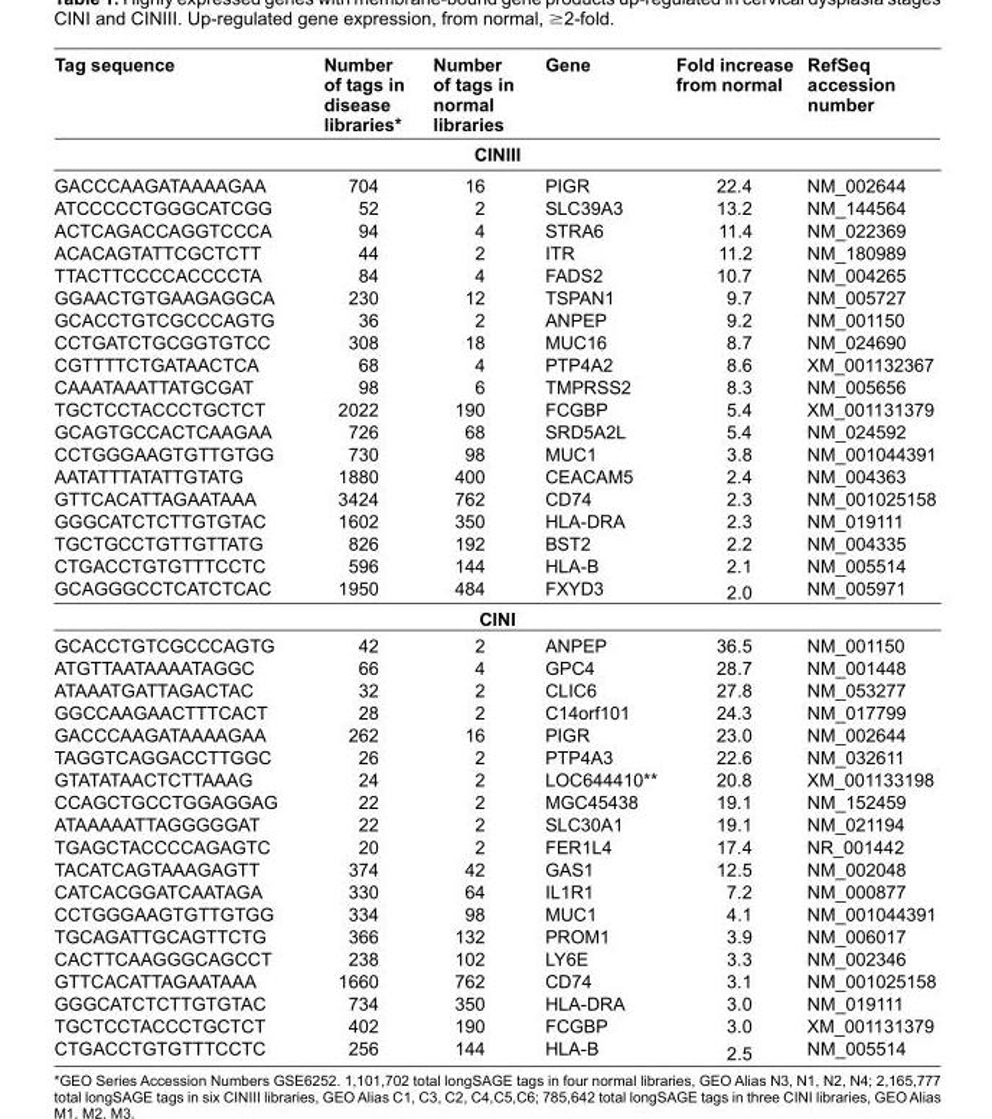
<table><thead><tr><td>Tag sequence</td><td>Number of tags in disease libraries*</td><td>Number of tags in normal libraries</td><td>Gene</td><td>Fold increase from normal</td><td>RefSeq accession number</td></tr></thead><tbody><tr><td colspan="6">CINIII</td></tr><tr><td>GACCCAAGATAAAAGAA</td><td>704</td><td>16</td><td>PIGR</td><td>22.4</td><td>NM_002644</td></tr><tr><td>ATCCCCCTGGGCATCGG</td><td>52</td><td>2</td><td>SLC39A3</td><td>13.2</td><td>NM_144564</td></tr><tr><td>ACTCAGACCAGGTCCCA</td><td>94</td><td>4</td><td>STRA6</td><td>11.4</td><td>NM_022369</td></tr><tr><td>ACACAGTATTCGCTCTT</td><td>44</td><td>2</td><td>ITR</td><td>11.2</td><td>NM_180989</td></tr><tr><td>TTACTTCCCCACCCCTA</td><td>84</td><td>4</td><td>FADS2</td><td>10.7</td><td>NM_004265</td></tr><tr><td>GGAACTGTGAAGAGGCA</td><td>230</td><td>12</td><td>TSPAN1</td><td>9.7</td><td>NM_005727</td></tr><tr><td>GCACCTGTCGCCCAGTG</td><td>36</td><td>2</td><td>ANPEP</td><td>9.2</td><td>NM_001150</td></tr><tr><td>CCTGATCTGCGGTGTCC</td><td>308</td><td>18</td><td>MUC16</td><td>8.7</td><td>NM_024690</td></tr><tr><td>CGTTTTCTGATAACTCA</td><td>68</td><td>4</td><td>PTP4A2</td><td>8.6</td><td>XM_001132367</td></tr><tr><td>CAAATAAATTATGCGAT</td><td>98</td><td>6</td><td>TMPRSS2</td><td>8.3</td><td>NM_005656</td></tr><tr><td>TGCTCCTACCCTGCTCT</td><td>2022</td><td>190</td><td>FCGBP</td><td>5.4</td><td>XM_001131379</td></tr><tr><td>GCAGTGCCACTCAAGAA</td><td>726</td><td>68</td><td>SRD5A2L</td><td>5.4</td><td>NM_024592</td></tr><tr><td>CCTGGGAAGTGTTGTGG</td><td>730</td><td>98</td><td>MUC1</td><td>3.8</td><td>NM_001044391</td></tr><tr><td>AATATTTATATTGTATG</td><td>1880</td><td>400</td><td>CEACAM5</td><td>2.4</td><td>NM_004363</td></tr><tr><td>GTTCACATTAGAATAAA</td><td>3424</td><td>762</td><td>CD74</td><td>2.3</td><td>NM_001025158</td></tr><tr><td>GGGCATCTCTTGTGTAC</td><td>1602</td><td>350</td><td>HLA-DRA</td><td>2.3</td><td>NM_019111</td></tr><tr><td>TGCTGCCTGTTGTTATG</td><td>826</td><td>192</td><td>BST2</td><td>2.2</td><td>NM_004335</td></tr><tr><td>CTGACCTGTGTTTCCTC</td><td>596</td><td>144</td><td>HLA-B</td><td>2.1</td><td>NM_005514</td></tr><tr><td>GCAGGGCCTCATCTCAC</td><td>1950</td><td>484</td><td>FXYD3</td><td>2.0</td><td>NM_005971</td></tr><tr><td colspan="6">CINI</td></tr><tr><td>GCACCTGTCGCCCAGTG</td><td>42</td><td>2</td><td>ANPEP</td><td>36.5</td><td>NM_001150</td></tr><tr><td>ATGTTAATAAAATAGGC</td><td>66</td><td>4</td><td>GPC4</td><td>28.7</td><td>NM_001448</td></tr><tr><td>ATAAATGATTAGACTAC</td><td>32</td><td>2</td><td>CLIC6</td><td>27.8</td><td>NM_053277</td></tr><tr><td>GGCCAAGAACTTTCACT</td><td>28</td><td>2</td><td>C14orf101</td><td>24.3</td><td>NM_017799</td></tr><tr><td>GACCCAAGATAAAAGAA</td><td>262</td><td>16</td><td>PIGR</td><td>23.0</td><td>NM_002644</td></tr><tr><td>TAGGTCAGGACCTTGGC</td><td>26</td><td>2</td><td>PTP4A3</td><td>22.6</td><td>NM_032611</td></tr><tr><td>GTATATAACTCTTAAAG</td><td>24</td><td>2</td><td>LOC644410**</td><td>20.8</td><td>XM_001133198</td></tr><tr><td>CCAGCTGCCTGGAGGAG</td><td>22</td><td>2</td><td>MGC45438</td><td>19.1</td><td>NM_152459</td></tr><tr><td>ATAAAAATTAGGGGGAT</td><td>22</td><td>2</td><td>SLC30A1</td><td>19.1</td><td>NM_021194</td></tr><tr><td>TGAGCTACCCCAGAGTC</td><td>20</td><td>2</td><td>FER1L4</td><td>17.4</td><td>NR_001442</td></tr><tr><td>TACATCAGTAAAGAGTT</td><td>374</td><td>42</td><td>GAS1</td><td>12.5</td><td>NM_002048</td></tr><tr><td>CATCACGGATCAATAGA</td><td>330</td><td>64</td><td>IL1R1</td><td>7.2</td><td>NM_000877</td></tr><tr><td>CCTGGGAAGTGTTGTGG</td><td>334</td><td>98</td><td>MUC1</td><td>4.1</td><td>NM_001044391</td></tr><tr><td>TGCAGATTGCAGTTCTG</td><td>366</td><td>132</td><td>PROM1</td><td>3.9</td><td>NM_006017</td></tr><tr><td>CACTTCAAGGGCAGCCT</td><td>238</td><td>102</td><td>LY6E</td><td>3.3</td><td>NM_002346</td></tr><tr><td>GTTCACATTAGAATAAA</td><td>1660</td><td>762</td><td>CD74</td><td>3.1</td><td>NM_001025158</td></tr><tr><td>GGGCATCTCTTGTGTAC</td><td>734</td><td>350</td><td>HLA-DRA</td><td>3.0</td><td>NM_019111</td></tr><tr><td>TGCTCCTACCCTGCTCT</td><td>402</td><td>190</td><td>FCGBP</td><td>3.0</td><td>XM_001131379</td></tr><tr><td>CTGACCTGTGTTTCCTC</td><td>256</td><td>144</td><td>HLA-B</td><td>2.5</td><td>NM_005514</td></tr></tbody></table>